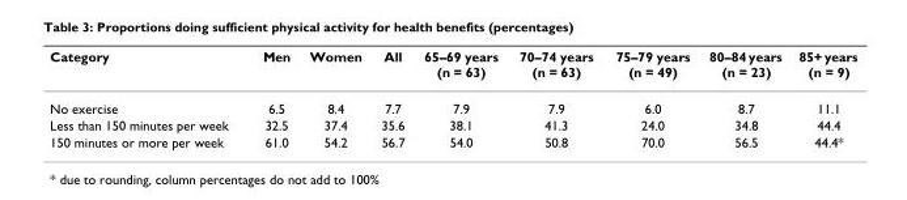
<table><thead><tr><td>Category</td><td>Men</td><td>Women</td><td>All</td><td>65–69 years (n = 63)</td><td>70–74 years (n = 63)</td><td>75–79 years (n = 49)</td><td>80–84 years (n = 23)</td><td>85+ years (n = 9)</td></tr></thead><tbody><tr><td>No exercise</td><td>6.5</td><td>8.4</td><td>7.7</td><td>7.9</td><td>7.9</td><td>6.0</td><td>8.7</td><td>11.1</td></tr><tr><td>Less than 150 minutes per week</td><td>32.5</td><td>37.4</td><td>35.6</td><td>38.1</td><td>41.3</td><td>24.0</td><td>34.8</td><td>44.4</td></tr><tr><td>150 minutes or more per week</td><td>61.0</td><td>54.2</td><td>56.7</td><td>54.0</td><td>50.8</td><td>70.0</td><td>56.5</td><td>44.4*</td></tr></tbody></table>